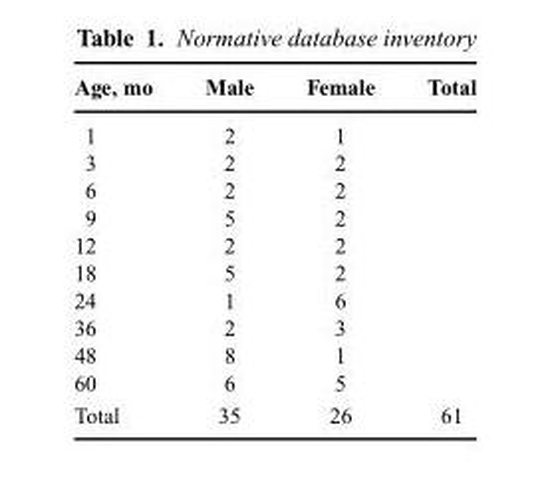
<table><thead><tr><td>Age, mo</td><td>Male</td><td>Female</td><td>Total</td></tr></thead><tbody><tr><td>1</td><td>2</td><td>1</td><td></td></tr><tr><td>3</td><td>2</td><td>2</td><td></td></tr><tr><td>6</td><td>2</td><td>2</td><td></td></tr><tr><td>9</td><td>5</td><td>2</td><td></td></tr><tr><td>12</td><td>2</td><td>2</td><td></td></tr><tr><td>18</td><td>5</td><td>2</td><td></td></tr><tr><td>24</td><td>1</td><td>6</td><td></td></tr><tr><td>36</td><td>2</td><td>3</td><td></td></tr><tr><td>48</td><td>8</td><td>1</td><td></td></tr><tr><td>60</td><td>6</td><td>5</td><td></td></tr><tr><td>Total</td><td>35</td><td>26</td><td>61</td></tr></tbody></table>